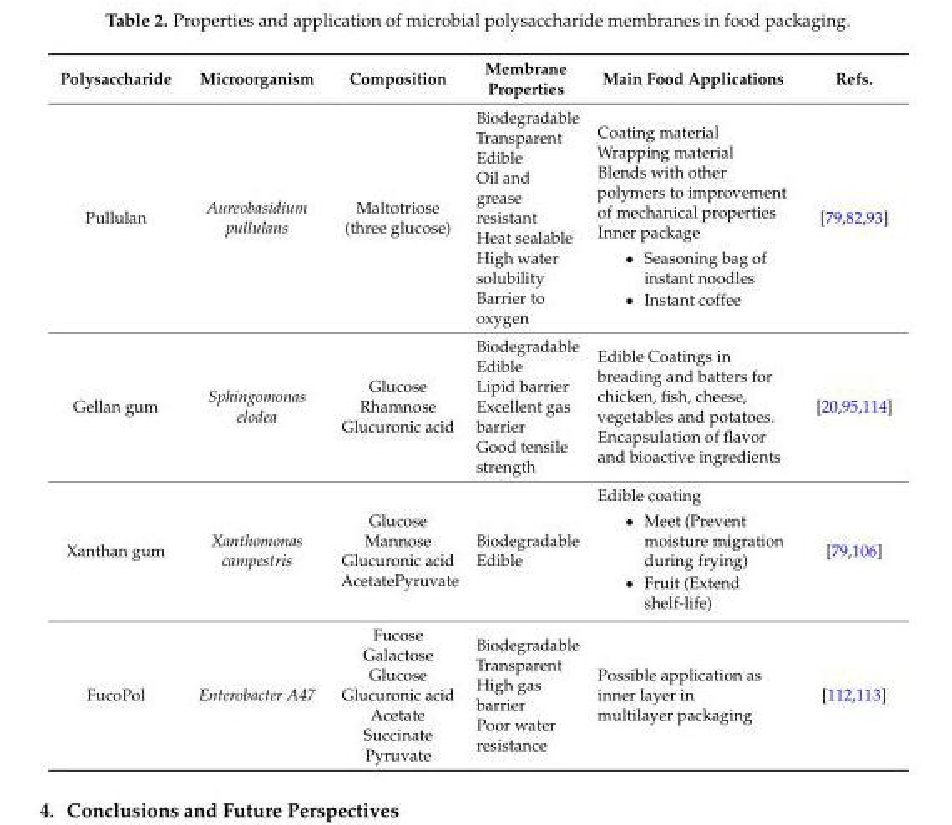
<table><thead><tr><td>Polysaccharide</td><td>Microorganism</td><td>Composition</td><td>Membrane Properties</td><td>Main Food Applications</td><td>Refs.</td></tr></thead><tbody><tr><td>Pullulan</td><td>Aureobasidium pullulans</td><td>Maltotriose (three glucose)</td><td>Biodegradable Transparent Edible Oil and grease resistant Heat sealable High water solubility Barrier to oxygen</td><td>Coating material Wrapping material Blends with other polymers to improvement of mechanical properties Inner package ‚ Seasoning bag of instant noodles ‚ Instant coffee</td><td>[79,82,93]</td></tr><tr><td>Gellan gum</td><td>Sphingomonas elodea</td><td>Glucose Rhamnose Glucuronic acid</td><td>Biodegradable Edible Lipid barrier Excellent gas barrier Good tensile strength</td><td>Edible Coatings in breading and batters for chicken, fish, cheese, vegetables and potatoes. Encapsulation of flavor and bioactive ingredients</td><td>[20,95,114]</td></tr><tr><td>Xanthan gum</td><td>Xanthomonas campestris</td><td>Glucose Mannose Glucuronic acid AcetatePyruvate</td><td>Biodegradable Edible</td><td>Edible coating ‚ Meet (Prevent moisture migration during frying) ‚ Fruit (Extend shelf-life)</td><td>[79,106]</td></tr><tr><td>FucoPol</td><td>Enterobacter A47</td><td>Fucose Galactose Glucose Glucuronic acid Acetate Succinate Pyruvate</td><td>Biodegradable Transparent High gas barrier Poor water resistance</td><td>Possible application as inner layer in multilayer packaging</td><td>[112,113]</td></tr></tbody></table>